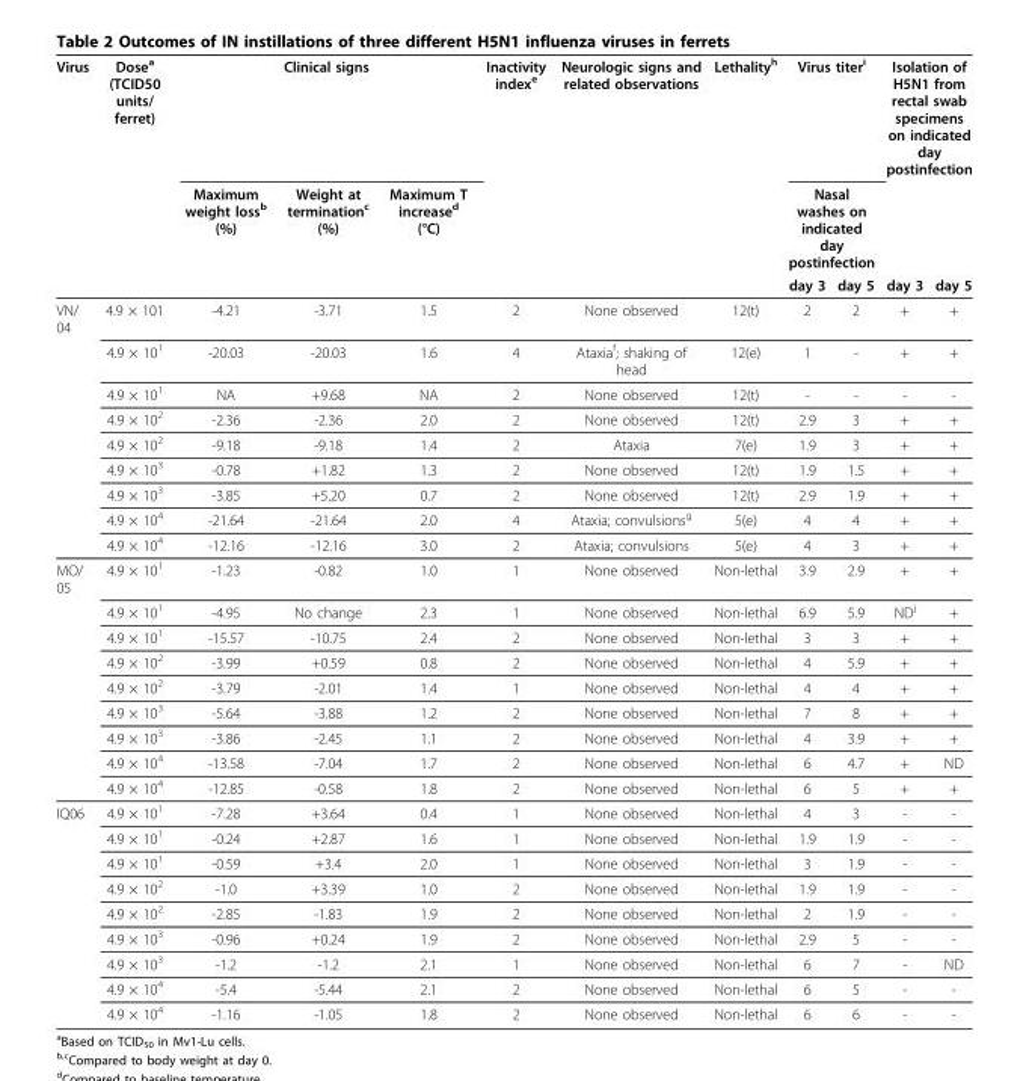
<table><thead><tr><td rowspan="3">Virus</td><td rowspan="3">Dose<sup>a</sup> (TCID50 units/ ferret)</td><td colspan="3">Clinical signs</td><td rowspan="3">Inactivity index<sup>e</sup></td><td rowspan="3">Neurologic signs and related observations</td><td rowspan="3">Lethality<sup>h</sup></td><td rowspan="2" colspan="2">Virus titer<sup>i</sup> Nasal washes on indicated day postinfection</td><td colspan="2">Isolation of H5N1 from rectal swab specimens on indicated day postinfection</td></tr><tr><td rowspan="2">Maximum weight loss<sup>b</sup> (%)</td><td rowspan="2">Weight at termination<sup>c</sup> (%)</td><td rowspan="2">Maximum T increase<sup>d</sup> (°C)</td><td rowspan="2">day 3</td><td rowspan="2">day 5</td></tr><tr><td>day 3</td><td>day 5</td></tr></thead><tbody><tr><td rowspan="9">VN/ 04</td><td>4.9 × 101</td><td>-4.21</td><td>-3.71</td><td>1.5</td><td>2</td><td>None observed</td><td>12(t)</td><td>2</td><td>2</td><td>+</td><td>+</td></tr><tr><td>4.9 × 10<sup>1</sup></td><td>-20.03</td><td>-20.03</td><td>1.6</td><td>4</td><td>Ataxia<sup>f</sup>; shaking of head</td><td>12(e)</td><td>1</td><td>-</td><td>+</td><td>+</td></tr><tr><td>4.9 × 10<sup>1</sup></td><td>NA</td><td>+9.68</td><td>NA</td><td>2</td><td>None observed</td><td>12(t)</td><td>-</td><td>-</td><td>-</td><td>-</td></tr><tr><td>4.9 × 10<sup>2</sup></td><td>-2.36</td><td>-2.36</td><td>2.0</td><td>2</td><td>None observed</td><td>12(t)</td><td>2.9</td><td>3</td><td>+</td><td>+</td></tr><tr><td>4.9 × 10<sup>2</sup></td><td>-9.18</td><td>-9.18</td><td>1.4</td><td>2</td><td>Ataxia</td><td>7(e)</td><td>1.9</td><td>3</td><td>+</td><td>+</td></tr><tr><td>4.9 × 10<sup>3</sup></td><td>-0.78</td><td>+1.82</td><td>1.3</td><td>2</td><td>None observed</td><td>12(t)</td><td>1.9</td><td>1.5</td><td>+</td><td>+</td></tr><tr><td>4.9 × 10<sup>3</sup></td><td>-3.85</td><td>+5.20</td><td>0.7</td><td>2</td><td>None observed</td><td>12(t)</td><td>2.9</td><td>1.9</td><td>+</td><td>+</td></tr><tr><td>4.9 × 10<sup>4</sup></td><td>-21.64</td><td>-21.64</td><td>2.0</td><td>4</td><td>Ataxia; convulsions<sup>g</sup></td><td>5(e)</td><td>4</td><td>4</td><td>+</td><td>+</td></tr><tr><td>4.9 × 10<sup>4</sup></td><td>-12.16</td><td>-12.16</td><td>3.0</td><td>2</td><td>Ataxia; convulsions</td><td>5(e)</td><td>4</td><td>3</td><td>+</td><td>+</td></tr><tr><td rowspan="9">MO/ 05</td><td>4.9 × 10<sup>1</sup></td><td>-1.23</td><td>-0.82</td><td>1.0</td><td>1</td><td>None observed</td><td>Non-lethal</td><td>3.9</td><td>2.9</td><td>+</td><td>+</td></tr><tr><td>4.9 × 10<sup>1</sup></td><td>-4.95</td><td>No change</td><td>2.3</td><td>1</td><td>None observed</td><td>Non-lethal</td><td>6.9</td><td>5.9</td><td>ND<sup>j</sup></td><td>+</td></tr><tr><td>4.9 × 10<sup>1</sup></td><td>-15.57</td><td>-10.75</td><td>2.4</td><td>2</td><td>None observed</td><td>Non-lethal</td><td>3</td><td>3</td><td>+</td><td>+</td></tr><tr><td>4.9 × 10<sup>2</sup></td><td>-3.99</td><td>+0.59</td><td>0.8</td><td>2</td><td>None observed</td><td>Non-lethal</td><td>4</td><td>5.9</td><td>+</td><td>+</td></tr><tr><td>4.9 × 10<sup>2</sup></td><td>-3.79</td><td>-2.01</td><td>1.4</td><td>1</td><td>None observed</td><td>Non-lethal</td><td>4</td><td>4</td><td>+</td><td>+</td></tr><tr><td>4.9 × 10<sup>3</sup></td><td>-5.64</td><td>-3.88</td><td>1.2</td><td>2</td><td>None observed</td><td>Non-lethal</td><td>7</td><td>8</td><td>+</td><td>+</td></tr><tr><td>4.9 × 10<sup>3</sup></td><td>-3.86</td><td>-2.45</td><td>1.1</td><td>2</td><td>None observed</td><td>Non-lethal</td><td>4</td><td>3.9</td><td>+</td><td>+</td></tr><tr><td>4.9 × 10<sup>4</sup></td><td>-13.58</td><td>-7.04</td><td>1.7</td><td>2</td><td>None observed</td><td>Non-lethal</td><td>6</td><td>4.7</td><td>+</td><td>ND</td></tr><tr><td>4.9 × 10<sup>4</sup></td><td>-12.85</td><td>-0.58</td><td>1.8</td><td>2</td><td>None observed</td><td>Non-lethal</td><td>6</td><td>5</td><td>+</td><td>+</td></tr><tr><td rowspan="9">IQ06</td><td>4.9 × 10<sup>1</sup></td><td>-7.28</td><td>+3.64</td><td>0.4</td><td>1</td><td>None observed</td><td>Non-lethal</td><td>4</td><td>3</td><td>-</td><td>-</td></tr><tr><td>4.9 × 10<sup>1</sup></td><td>-0.24</td><td>+2.87</td><td>1.6</td><td>1</td><td>None observed</td><td>Non-lethal</td><td>1.9</td><td>1.9</td><td>-</td><td>-</td></tr><tr><td>4.9 × 10<sup>1</sup></td><td>-0.59</td><td>+3.4</td><td>2.0</td><td>1</td><td>None observed</td><td>Non-lethal</td><td>3</td><td>1.9</td><td>-</td><td>-</td></tr><tr><td>4.9 × 10<sup>2</sup></td><td>-1.0</td><td>+3.39</td><td>1.0</td><td>2</td><td>None observed</td><td>Non-lethal</td><td>1.9</td><td>1.9</td><td>-</td><td>-</td></tr><tr><td>4.9 × 10<sup>2</sup></td><td>-2.85</td><td>-1.83</td><td>1.9</td><td>2</td><td>None observed</td><td>Non-lethal</td><td>2</td><td>1.9</td><td>-</td><td>-</td></tr><tr><td>4.9 × 10<sup>3</sup></td><td>-0.96</td><td>+0.24</td><td>1.9</td><td>2</td><td>None observed</td><td>Non-lethal</td><td>2.9</td><td>5</td><td>-</td><td>-</td></tr><tr><td>4.9 × 10<sup>3</sup></td><td>-1.2</td><td>-1.2</td><td>2.1</td><td>1</td><td>None observed</td><td>Non-lethal</td><td>6</td><td>7</td><td>-</td><td>ND</td></tr><tr><td>4.9 × 10<sup>4</sup></td><td>-5.4</td><td>-5.44</td><td>2.1</td><td>2</td><td>None observed</td><td>Non-lethal</td><td>6</td><td>5</td><td>-</td><td>-</td></tr><tr><td>4.9 × 10<sup>4</sup></td><td>-1.16</td><td>-1.05</td><td>1.8</td><td>2</td><td>None observed</td><td>Non-lethal</td><td>6</td><td>6</td><td>-</td><td>-</td></tr></tbody></table>